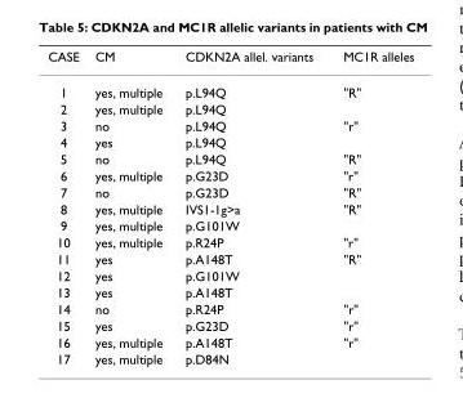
<table><thead><tr><td>CASE</td><td>CM</td><td>CDKN2A allel. variants</td><td>MC1R alleles</td></tr></thead><tbody><tr><td>1</td><td>yes, multiple</td><td>p.L94Q</td><td>&quot;R&quot;</td></tr><tr><td>2</td><td>yes, multiple</td><td>p.L94Q</td><td></td></tr><tr><td>3</td><td>no</td><td>p.L94Q</td><td>&quot;r&quot;</td></tr><tr><td>4</td><td>yes</td><td>p.L94Q</td><td></td></tr><tr><td>5</td><td>no</td><td>p.L94Q</td><td>&quot;R&quot;</td></tr><tr><td>6</td><td>yes, multiple</td><td>p.G23D</td><td>&quot;r&quot;</td></tr><tr><td>7</td><td>no</td><td>p.G23D</td><td>&quot;R&quot;</td></tr><tr><td>8</td><td>yes, multiple</td><td>IVS1-1g&gt;a</td><td>&quot;R&quot;</td></tr><tr><td>9</td><td>yes, multiple</td><td>p.G101W</td><td></td></tr><tr><td>10</td><td>yes, multiple</td><td>p.R24P</td><td>&quot;r&quot;</td></tr><tr><td>11</td><td>yes</td><td>p.A148T</td><td>&quot;R&quot;</td></tr><tr><td>12</td><td>yes</td><td>p.G101W</td><td></td></tr><tr><td>13</td><td>yes</td><td>p.A148T</td><td></td></tr><tr><td>14</td><td>no</td><td>p.R24P</td><td>&quot;r&quot;</td></tr><tr><td>15</td><td>yes</td><td>p.G23D</td><td>&quot;r&quot;</td></tr><tr><td>16</td><td>yes, multiple</td><td>p.A148T</td><td>&quot;r&quot;</td></tr><tr><td>17</td><td>yes, multiple</td><td>p.D84N</td><td></td></tr></tbody></table>